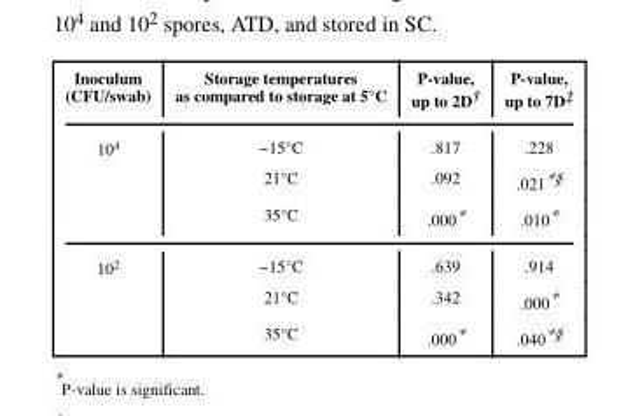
<table><thead><tr><td>Inoculum (CFU/swab)</td><td>Storage temperatures as compared to storage at 5°C</td><td>P-value, up to 2D†</td><td>P-value, up to 7D‡</td></tr></thead><tbody><tr><td rowspan="3">10<sup>4</sup></td><td>−15°C</td><td>.817</td><td>.228</td></tr><tr><td>21°C</td><td>.092</td><td>.021*§</td></tr><tr><td>35°C</td><td>.000*</td><td>.010*</td></tr><tr><td rowspan="3">10<sup>2</sup></td><td>−15°C</td><td>.639</td><td>.914</td></tr><tr><td>21°C</td><td>.342</td><td>.000*</td></tr><tr><td>35°C</td><td>.000*</td><td>.040*§</td></tr></tbody></table>